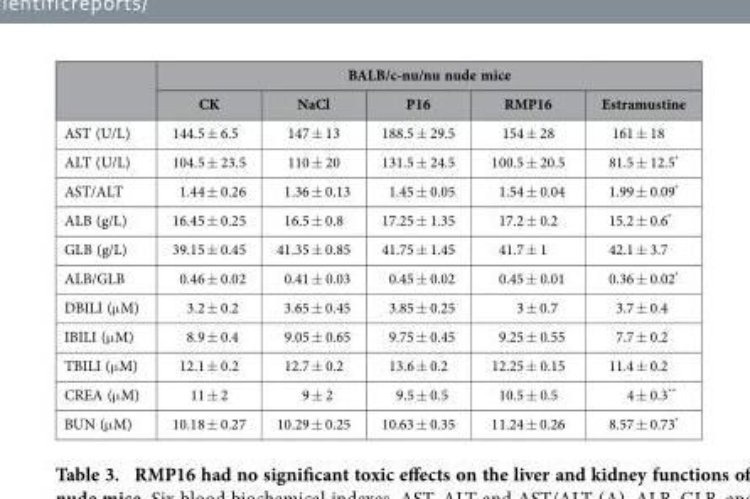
<table><thead><tr><td rowspan="2"></td><td colspan="5">BALB/c-nu/nu nude mice</td></tr><tr><td>CK</td><td>NaCl</td><td>P16</td><td>RMP16</td><td>Estramustine</td></tr></thead><tbody><tr><td>AST (U/L)</td><td>144.5 ± 6.5</td><td>147 ± 13</td><td>188.5 ± 29.5</td><td>154 ± 28</td><td>161 ± 18</td></tr><tr><td>ALT (U/L)</td><td>104.5 ± 23.5</td><td>110 ± 20</td><td>131.5 ± 24.5</td><td>100.5 ± 20.5</td><td>81.5 ± 12.5*</td></tr><tr><td>AST/ALT</td><td>1.44 ± 0.26</td><td>1.36 ± 0.13</td><td>1.45 ± 0.05</td><td>1.54 ± 0.04</td><td>1.99 ± 0.09*</td></tr><tr><td>ALB (g/L)</td><td>16.45 ± 0.25</td><td>16.5 ± 0.8</td><td>17.25 ± 1.35</td><td>17.2 ± 0.2</td><td>15.2 ± 0.6*</td></tr><tr><td>GLB (g/L)</td><td>39.15 ± 0.45</td><td>41.35 ± 0.85</td><td>41.75 ± 1.45</td><td>41.7 ± 1</td><td>42.1 ± 3.7</td></tr><tr><td>ALB/GLB</td><td>0.46 ± 0.02</td><td>0.41 ± 0.03</td><td>0.45 ± 0.02</td><td>0.45 ± 0.01</td><td>0.36 ± 0.02*</td></tr><tr><td>DBILI (μ M)</td><td>3.2 ± 0.2</td><td>3.65 ± 0.45</td><td>3.85 ± 0.25</td><td>3 ± 0.7</td><td>3.7 ± 0.4</td></tr><tr><td>IBILI (μ M)</td><td>8.9 ± 0.4</td><td>9.05 ± 0.65</td><td>9.75 ± 0.45</td><td>9.25 ± 0.55</td><td>7.7 ± 0.2</td></tr><tr><td>TBILI (μ M)</td><td>12.1 ± 0.2</td><td>12.7 ± 0.2</td><td>13.6 ± 0.2</td><td>12.25 ± 0.15</td><td>11.4 ± 0.2</td></tr><tr><td>CREA (μ M)</td><td>11 ± 2</td><td>9 ± 2</td><td>9.5 ± 0.5</td><td>10.5 ± 0.5</td><td>4 ± 0.3**</td></tr><tr><td>BUN (μ M)</td><td>10.18 ± 0.27</td><td>10.29 ± 0.25</td><td>10.63 ± 0.35</td><td>11.24 ± 0.26</td><td>8.57 ± 0.73*</td></tr></tbody></table>